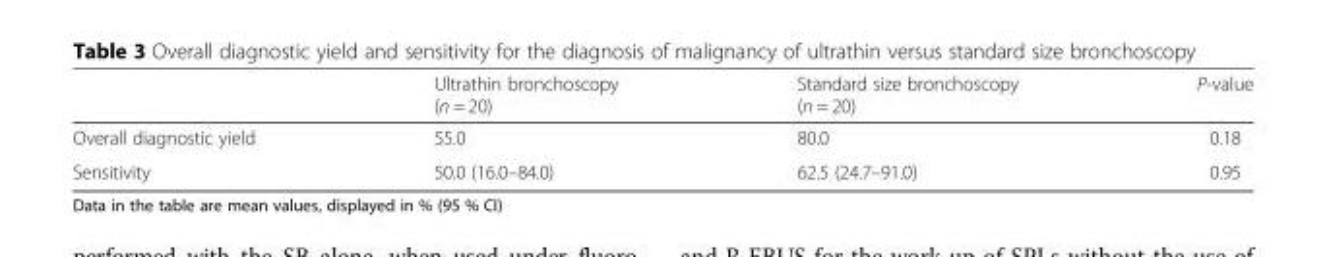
<table><thead><tr><td></td><td>Ultrathin bronchoscopy (n = 20)</td><td>Standard size bronchoscopy (n = 20)</td><td>P-value</td></tr></thead><tbody><tr><td>Overall diagnostic yield</td><td>55.0</td><td>80.0</td><td>0.18</td></tr><tr><td>Sensitivity</td><td>50.0 (16.0–84.0)</td><td>62.5 (24.7–91.0)</td><td>0.95</td></tr></tbody></table>